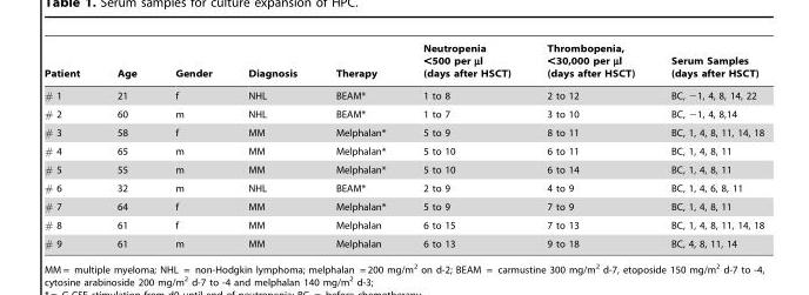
<table><thead><tr><td>Patient</td><td>Age</td><td>Gender</td><td>Diagnosis</td><td>Therapy</td><td>Neutropenia &lt;500 per µl (days after HSCT)</td><td>Thrombopenia, &lt;30,000 per µl (days after HSCT)</td><td>Serum Samples (days after HSCT)</td></tr></thead><tbody><tr><td># 1</td><td>21</td><td>f</td><td>NHL</td><td>BEAM*</td><td>1 to 8</td><td>2 to 12</td><td>BC, −1, 4, 8, 14, 22</td></tr><tr><td># 2</td><td>60</td><td>m</td><td>NHL</td><td>BEAM*</td><td>1 to 7</td><td>3 to 10</td><td>BC, −1, 4, 8,14</td></tr><tr><td># 3</td><td>58</td><td>f</td><td>MM</td><td>Melphalan*</td><td>5 to 9</td><td>8 to 11</td><td>BC, 1, 4, 8, 11, 14, 18</td></tr><tr><td># 4</td><td>65</td><td>m</td><td>MM</td><td>Melphalan*</td><td>5 to 10</td><td>6 to 11</td><td>BC, 1, 4, 8, 11</td></tr><tr><td># 5</td><td>55</td><td>m</td><td>MM</td><td>Melphalan*</td><td>5 to 10</td><td>6 to 14</td><td>BC, 1, 4, 8, 11</td></tr><tr><td># 6</td><td>32</td><td>m</td><td>NHL</td><td>BEAM*</td><td>2 to 9</td><td>4 to 9</td><td>BC, 1, 4, 6, 8, 11</td></tr><tr><td># 7</td><td>64</td><td>f</td><td>MM</td><td>Melphalan*</td><td>5 to 9</td><td>7 to 9</td><td>BC, 1, 4, 8, 11</td></tr><tr><td># 8</td><td>61</td><td>f</td><td>MM</td><td>Melphalan</td><td>6 to 15</td><td>7 to 13</td><td>BC, 1, 4, 8, 11, 14, 18</td></tr><tr><td># 9</td><td>61</td><td>m</td><td>MM</td><td>Melphalan</td><td>6 to 13</td><td>9 to 18</td><td>BC, 4, 8, 11, 14</td></tr></tbody></table>